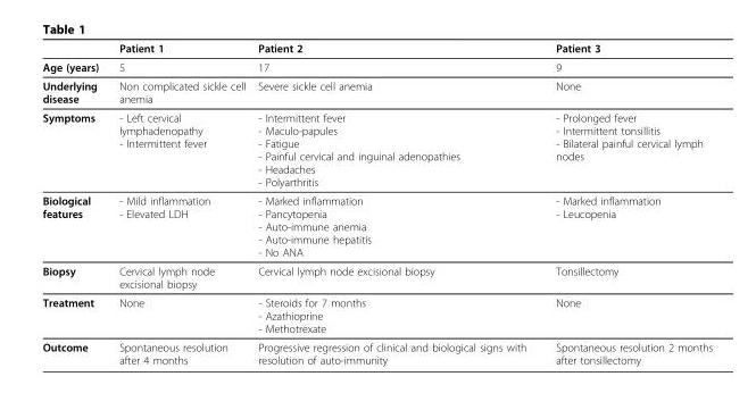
<table><thead><tr><td></td><td>Patient 1</td><td>Patient 2</td><td>Patient 3</td></tr></thead><tbody><tr><td>Age (years)</td><td>5</td><td>17</td><td>9</td></tr><tr><td>Underlying disease</td><td>Non complicated sickle cell anemia</td><td>Severe sickle cell anemia</td><td>None</td></tr><tr><td>Symptoms</td><td>- Left cervical lymphadenopathy - Intermittent fever</td><td>- Intermittent fever - Maculo-papules - Fatigue - Painful cervical and inguinal adenopathies - Headaches - Polyarthritis</td><td>- Prolonged fever - Intermittent tonsillitis - Bilateral painful cervical lymph nodes</td></tr><tr><td>Biological features</td><td>- Mild inflammation - Elevated LDH</td><td>- Marked inflammation - Pancytopenia - Auto-immune anemia - Auto-immune hepatitis - No ANA</td><td>- Marked inflammation - Leucopenia</td></tr><tr><td>Biopsy</td><td>Cervical lymph node excisional biopsy</td><td>Cervical lymph node excisional biopsy</td><td>Tonsillectomy</td></tr><tr><td>Treatment</td><td>None</td><td>- Steroids for 7 months - Azathioprine - Methotrexate</td><td>None</td></tr><tr><td>Outcome</td><td>Spontaneous resolution after 4 months</td><td>Progressive regression of clinical and biological signs with resolution of auto-immunity</td><td>Spontaneous resolution 2 months after tonsillectomy</td></tr></tbody></table>